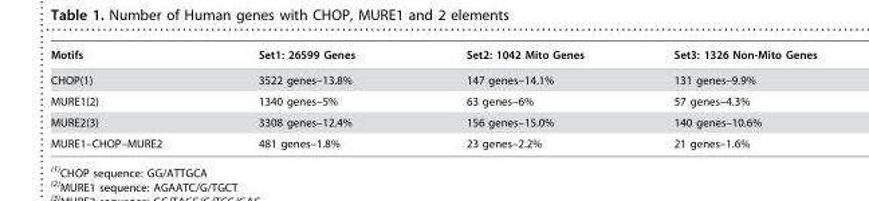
<table><thead><tr><td>Motifs</td><td>Set1: 26599 Genes</td><td>Set2: 1042 Mito Genes</td><td>Set3: 1326 Non-Mito Genes</td></tr></thead><tbody><tr><td>CHOP(1)</td><td>3522 genes–13.8%</td><td>147 genes–14.1%</td><td>131 genes–9.9%</td></tr><tr><td>MURE1(2)</td><td>1340 genes–5%</td><td>63 genes–6%</td><td>57 genes–4.3%</td></tr><tr><td>MURE2(3)</td><td>3308 genes–12.4%</td><td>156 genes–15.0%</td><td>140 genes–10.6%</td></tr><tr><td>MURE1–CHOP–MURE2</td><td>481 genes–1.8%</td><td>23 genes–2.2%</td><td>21 genes–1.6%</td></tr></tbody></table>